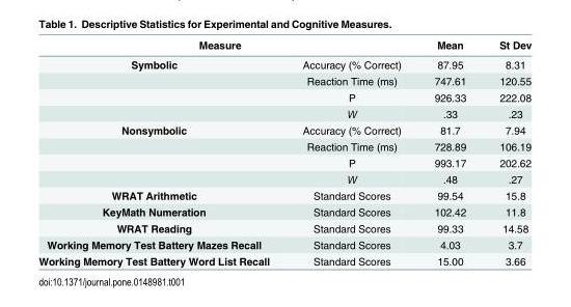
<table><thead><tr><td colspan="2">Measure</td><td rowspan="2">Mean 87.95</td><td rowspan="2">St Dev 8.31</td></tr><tr><td>Symbolic</td><td>Accuracy (% Correct)</td></tr></thead><tbody><tr><td></td><td>Reaction Time (ms)</td><td>747.61</td><td>120.55</td></tr><tr><td></td><td>P</td><td>926.33</td><td>222.08</td></tr><tr><td></td><td>W</td><td>.33</td><td>.23</td></tr><tr><td rowspan="4">Nonsymbolic</td><td>Accuracy (% Correct)</td><td>81.7</td><td>7.94</td></tr><tr><td>Reaction Time (ms)</td><td>728.89</td><td>106.19</td></tr><tr><td>P</td><td>993.17</td><td>202.62</td></tr><tr><td>W</td><td>.48</td><td>.27</td></tr><tr><td>WRAT Arithmetic</td><td>Standard Scores</td><td>99.54</td><td>15.8</td></tr><tr><td>KeyMath Numeration</td><td>Standard Scores</td><td>102.42</td><td>11.8</td></tr><tr><td>WRAT Reading</td><td>Standard Scores</td><td>99.33</td><td>14.58</td></tr><tr><td>Working Memory Test Battery Mazes Recall</td><td>Standard Scores</td><td>4.03</td><td>3.7</td></tr><tr><td>Working Memory Test Battery Word List Recall</td><td>Standard Scores</td><td>15.00</td><td>3.66</td></tr></tbody></table>